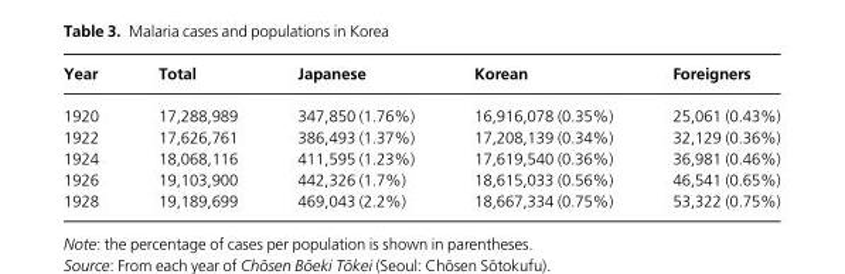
<table><thead><tr><td>Year</td><td>Total</td><td>Japanese</td><td>Korean</td><td>Foreigners</td></tr></thead><tbody><tr><td>1920</td><td>17,288,989</td><td>347,850 (1.76%)</td><td>16,916,078 (0.35%)</td><td>25,061 (0.43%)</td></tr><tr><td>1922</td><td>17,626,761</td><td>386,493 (1.37%)</td><td>17,208,139 (0.34%)</td><td>32,129 (0.36%)</td></tr><tr><td>1924</td><td>18,068,116</td><td>411,595 (1.23%)</td><td>17,619,540 (0.36%)</td><td>36,981 (0.46%)</td></tr><tr><td>1926</td><td>19,103,900</td><td>442,326 (1.7%)</td><td>18,615,033 (0.56%)</td><td>46,541 (0.65%)</td></tr><tr><td>1928</td><td>19,189,699</td><td>469,043 (2.2%)</td><td>18,667,334 (0.75%)</td><td>53,322 (0.75%)</td></tr></tbody></table>